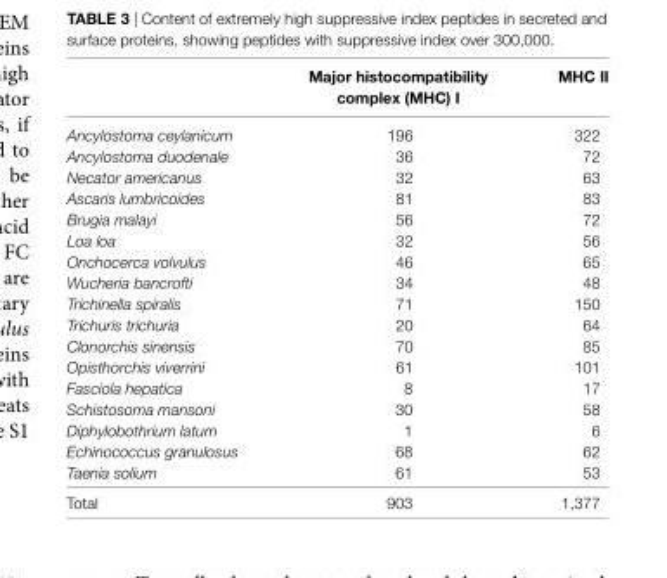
<table><thead><tr><td></td><td>Major histocompatibility complex (Mhc) i</td><td>Mhc</td></tr></thead><tbody><tr><td>Ancylostoma ceylanicum</td><td>196</td><td>322</td></tr><tr><td>Ancylostoma duodenale</td><td>36</td><td>72</td></tr><tr><td>Necator americanus</td><td>32</td><td>63</td></tr><tr><td>Ascaris lumbricoides</td><td>81</td><td>83</td></tr><tr><td>Brugia malayi</td><td>56</td><td>72</td></tr><tr><td>Loa loa</td><td>32</td><td>56</td></tr><tr><td>Onchocerca volvulus</td><td>46</td><td>65</td></tr><tr><td>Wucheria bancrofti</td><td>34</td><td>48</td></tr><tr><td>Trichinella spiralis</td><td>71</td><td>150</td></tr><tr><td>Trichuris trichuria</td><td>20</td><td>64</td></tr><tr><td>Clonorchis sinensis</td><td>70</td><td>85</td></tr><tr><td>Opisthorchis viverrini</td><td>61</td><td>101</td></tr><tr><td>Fasciola hepatica</td><td>8</td><td>17</td></tr><tr><td>Schistosoma mansoni</td><td>30</td><td>58</td></tr><tr><td>Diphylobothrium latum</td><td>1</td><td>6</td></tr><tr><td>Echinococcus granulosus</td><td>68</td><td>62</td></tr><tr><td>Taenia solium</td><td>61</td><td>53</td></tr><tr><td>Total</td><td>903</td><td>1,377</td></tr></tbody></table>